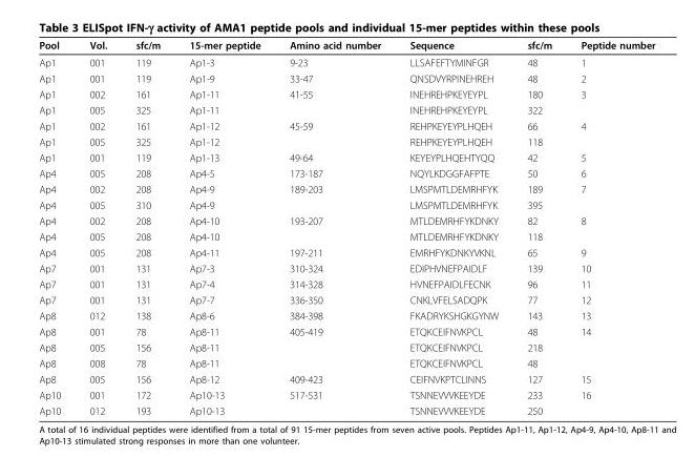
<table><thead><tr><td>Pool</td><td>Vol.</td><td>sfc/m</td><td>15-mer peptide</td><td>Amino acid number</td><td>Sequence</td><td>sfc/m</td><td>Peptide number</td></tr></thead><tbody><tr><td>Ap1</td><td>001</td><td>119</td><td>Ap1-3</td><td>9-23</td><td>LLSAFEFTYMINFGR</td><td>48</td><td>1</td></tr><tr><td>Ap1</td><td>001</td><td>119</td><td>Ap1-9</td><td>33-47</td><td>QNSDVYRPINEHREH</td><td>48</td><td>2</td></tr><tr><td>Ap1</td><td>002</td><td>161</td><td>Ap1-11</td><td>41-55</td><td>INEHREHPKEYEYPL</td><td>180</td><td>3</td></tr><tr><td>Ap1</td><td>005</td><td>325</td><td>Ap1-11</td><td></td><td>INEHREHPKEYEYPL</td><td>322</td><td></td></tr><tr><td>Ap1</td><td>002</td><td>161</td><td>Ap1-12</td><td>45-59</td><td>REHPKEYEYPLHQEH</td><td>66</td><td>4</td></tr><tr><td>Ap1</td><td>005</td><td>325</td><td>Ap1-12</td><td></td><td>REHPKEYEYPLHQEH</td><td>118</td><td></td></tr><tr><td>Ap1</td><td>001</td><td>119</td><td>Ap1-13</td><td>49-64</td><td>KEYEYPLHQEHTYQQ</td><td>42</td><td>5</td></tr><tr><td>Ap4</td><td>005</td><td>208</td><td>Ap4-5</td><td>173-187</td><td>NQYLKDGGFAFPTE</td><td>50</td><td>6</td></tr><tr><td>Ap4</td><td>002</td><td>208</td><td>Ap4-9</td><td>189-203</td><td>LMSPMTLDEMRHFYK</td><td>189</td><td>7</td></tr><tr><td>Ap4</td><td>005</td><td>310</td><td>Ap4-9</td><td></td><td>LMSPMTLDEMRHFYK</td><td>395</td><td></td></tr><tr><td>Ap4</td><td>002</td><td>208</td><td>Ap4-10</td><td>193-207</td><td>MTLDEMRHFYKDNKY</td><td>82</td><td>8</td></tr><tr><td>Ap4</td><td>005</td><td>208</td><td>Ap4-10</td><td></td><td>MTLDEMRHFYKDNKY</td><td>118</td><td></td></tr><tr><td>Ap4</td><td>005</td><td>208</td><td>Ap4-11</td><td>197-211</td><td>EMRHFYKDNKYVKNL</td><td>65</td><td>9</td></tr><tr><td>Ap7</td><td>001</td><td>131</td><td>Ap7-3</td><td>310-324</td><td>EDIPHVNEFPAIDLF</td><td>139</td><td>10</td></tr><tr><td>Ap7</td><td>001</td><td>131</td><td>Ap7-4</td><td>314-328</td><td>HVNEFPAIDLFECNK</td><td>96</td><td>11</td></tr><tr><td>Ap7</td><td>001</td><td>131</td><td>Ap7-7</td><td>336-350</td><td>CNKLVFELSADQPK</td><td>77</td><td>12</td></tr><tr><td>Ap8</td><td>012</td><td>138</td><td>Ap8-6</td><td>384-398</td><td>FKADRYKSHGKGYNW</td><td>143</td><td>13</td></tr><tr><td>Ap8</td><td>001</td><td>78</td><td>Ap8-11</td><td>405-419</td><td>ETQKCEIFNVKPCL</td><td>48</td><td>14</td></tr><tr><td>Ap8</td><td>005</td><td>156</td><td>Ap8-11</td><td></td><td>ETQKCEIFNVKPCL</td><td>218</td><td></td></tr><tr><td>Ap8</td><td>008</td><td>78</td><td>Ap8-11</td><td></td><td>ETQKCEIFNVKPCL</td><td>48</td><td></td></tr><tr><td>Ap8</td><td>005</td><td>156</td><td>Ap8-12</td><td>409-423</td><td>CEIFNVKPTCLINNS</td><td>127</td><td>15</td></tr><tr><td>Ap10</td><td>001</td><td>172</td><td>Ap10-13</td><td>517-531</td><td>TSNNEVVVKEEYDE</td><td>233</td><td>16</td></tr><tr><td>Ap10</td><td>012</td><td>193</td><td>Ap10-13</td><td></td><td>TSNNEVVVKEEYDE</td><td>250</td><td></td></tr></tbody></table>